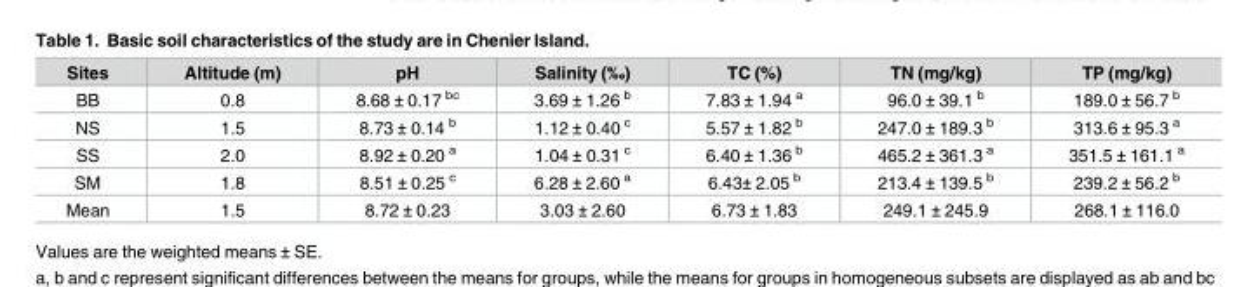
<table><thead><tr><td>Sites</td><td>Altitude (m)</td><td>pH</td><td>Salinity (‰)</td><td>TC (%)</td><td>TN (mg/kg)</td><td>TP (mg/kg)</td></tr></thead><tbody><tr><td>BB</td><td>0.8</td><td>8.68 ± 0.17 <sup>bc</sup></td><td>3.69 ± 1.26 <sup>b</sup></td><td>7.83 ± 1.94 <sup>a</sup></td><td>96.0 ± 39.1 <sup>b</sup></td><td>189.0 ± 56.7 <sup>b</sup></td></tr><tr><td>NS</td><td>1.5</td><td>8.73 ± 0.14 <sup>b</sup></td><td>1.12 ± 0.40 <sup>c</sup></td><td>5.57 ± 1.82 <sup>b</sup></td><td>247.0 ± 189.3 <sup>b</sup></td><td>313.6 ± 95.3 <sup>a</sup></td></tr><tr><td>SS</td><td>2.0</td><td>8.92 ± 0.20 <sup>a</sup></td><td>1.04 ± 0.31 <sup>c</sup></td><td>6.40 ± 1.36 <sup>b</sup></td><td>465.2 ± 361.3 <sup>a</sup></td><td>351.5 ± 161.1 <sup>a</sup></td></tr><tr><td>SM</td><td>1.8</td><td>8.51 ± 0.25 <sup>c</sup></td><td>6.28 ± 2.60 <sup>a</sup></td><td>6.43± 2.05 <sup>b</sup></td><td>213.4 ± 139.5 <sup>b</sup></td><td>239.2 ± 56.2 <sup>b</sup></td></tr><tr><td>Mean</td><td>1.5</td><td>8.72 ± 0.23</td><td>3.03 ± 2.60</td><td>6.73 ± 1.83</td><td>249.1 ± 245.9</td><td>268.1 ± 116.0</td></tr></tbody></table>